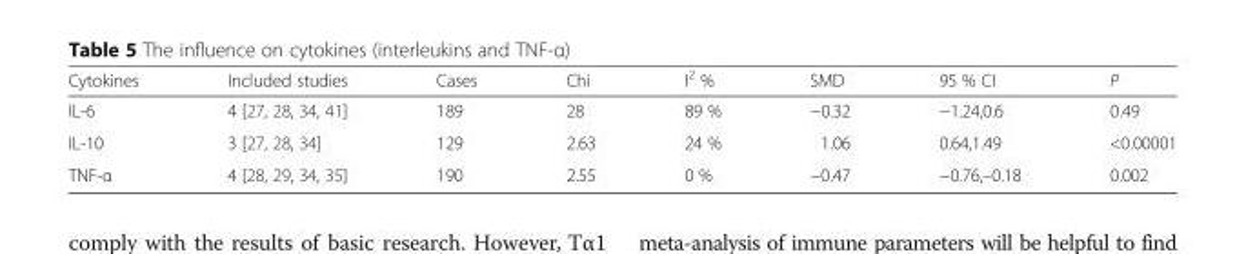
<table><thead><tr><td>Cytokines</td><td>Included studies</td><td>Cases</td><td>Chi</td><td>I<sup>2</sup> %</td><td>SMD</td><td>95 % CI</td><td>P</td></tr></thead><tbody><tr><td>IL-6</td><td>4 [27, 28, 34, 41]</td><td>189</td><td>28</td><td>89 %</td><td>−0.32</td><td>−1.24,0.6</td><td>0.49</td></tr><tr><td>IL-10</td><td>3 [27, 28, 34]</td><td>129</td><td>2.63</td><td>24 %</td><td>1.06</td><td>0.64,1.49</td><td>&lt;0.00001</td></tr><tr><td>TNF-α</td><td>4 [28, 29, 34, 35]</td><td>190</td><td>2.55</td><td>0 %</td><td>−0.47</td><td>−0.76,–0.18</td><td>0.002</td></tr></tbody></table>